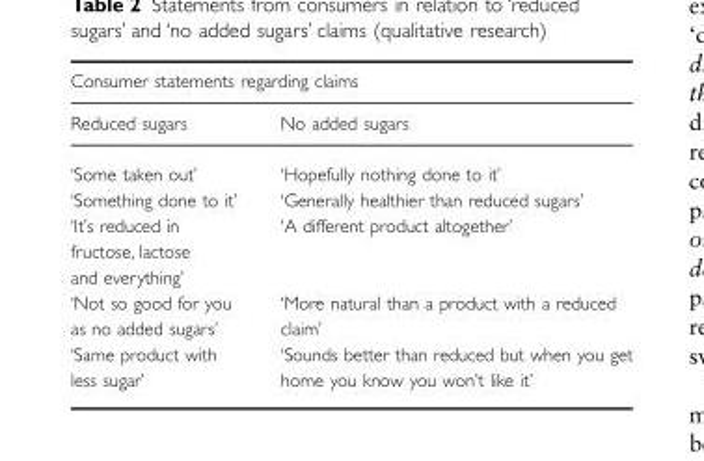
<table><thead><tr><td colspan="2">Consumer statements regarding claims</td></tr><tr><td>Reduced sugars</td><td>No added sugars</td></tr></thead><tbody><tr><td>‘Some taken out’</td><td>‘Hopefully nothing done to it’</td></tr><tr><td>‘Something done to it’</td><td>‘Generally healthier than reduced sugars’</td></tr><tr><td>‘It’s reduced in fructose, lactose and everything’</td><td>‘A different product altogether’</td></tr><tr><td>‘Not so good for you as no added sugars’</td><td>‘More natural than a product with a reduced claim’</td></tr><tr><td>‘Same product with less sugar’</td><td>‘Sounds better than reduced but when you get home you know you won’t like it’</td></tr></tbody></table>